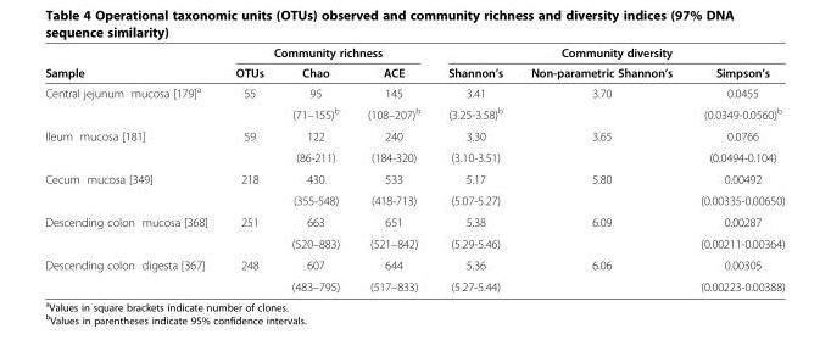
<table><thead><tr><td rowspan="2">Sample</td><td colspan="3">Community richness</td><td colspan="3">Community diversity</td></tr><tr><td>OTUs</td><td>Chao</td><td>ACE</td><td>Shannon’s</td><td>Non-parametric Shannon’s</td><td>Simpson’s</td></tr></thead><tbody><tr><td rowspan="2">Central jejunum mucosa [179]<sup>a</sup></td><td>55</td><td>95</td><td>145</td><td>3.41</td><td>3.70</td><td>0.0455</td></tr><tr><td></td><td>(71–155)<sup>b</sup></td><td>(108–207)<sup>b</sup></td><td>(3.25-3.58)<sup>b</sup></td><td></td><td>(0.0349-0.0560)<sup>b</sup></td></tr><tr><td rowspan="2">Ileum mucosa [181]</td><td>59</td><td>122</td><td>240</td><td>3.30</td><td>3.65</td><td>0.0766</td></tr><tr><td></td><td>(86-211)</td><td>(184-320)</td><td>(3.10-3.51)</td><td></td><td>(0.0494-0.104)</td></tr><tr><td rowspan="2">Cecum mucosa [349]</td><td>218</td><td>430</td><td>533</td><td>5.17</td><td>5.80</td><td>0.00492</td></tr><tr><td></td><td>(355-548)</td><td>(418-713)</td><td>(5.07-5.27)</td><td></td><td>(0.00335-0.00650)</td></tr><tr><td rowspan="2">Descending colon mucosa [368]</td><td>251</td><td>663</td><td>651</td><td>5.38</td><td>6.09</td><td>0.00287</td></tr><tr><td></td><td>(520–883)</td><td>(521–842)</td><td>(5.29-5.46)</td><td></td><td>(0.00211-0.00364)</td></tr><tr><td rowspan="2">Descending colon digesta [367]</td><td>248</td><td>607</td><td>644</td><td>5.36</td><td>6.06</td><td>0.00305</td></tr><tr><td></td><td>(483–795)</td><td>(517–833)</td><td>(5.27-5.44)</td><td></td><td>(0.00223-0.00388)</td></tr></tbody></table>